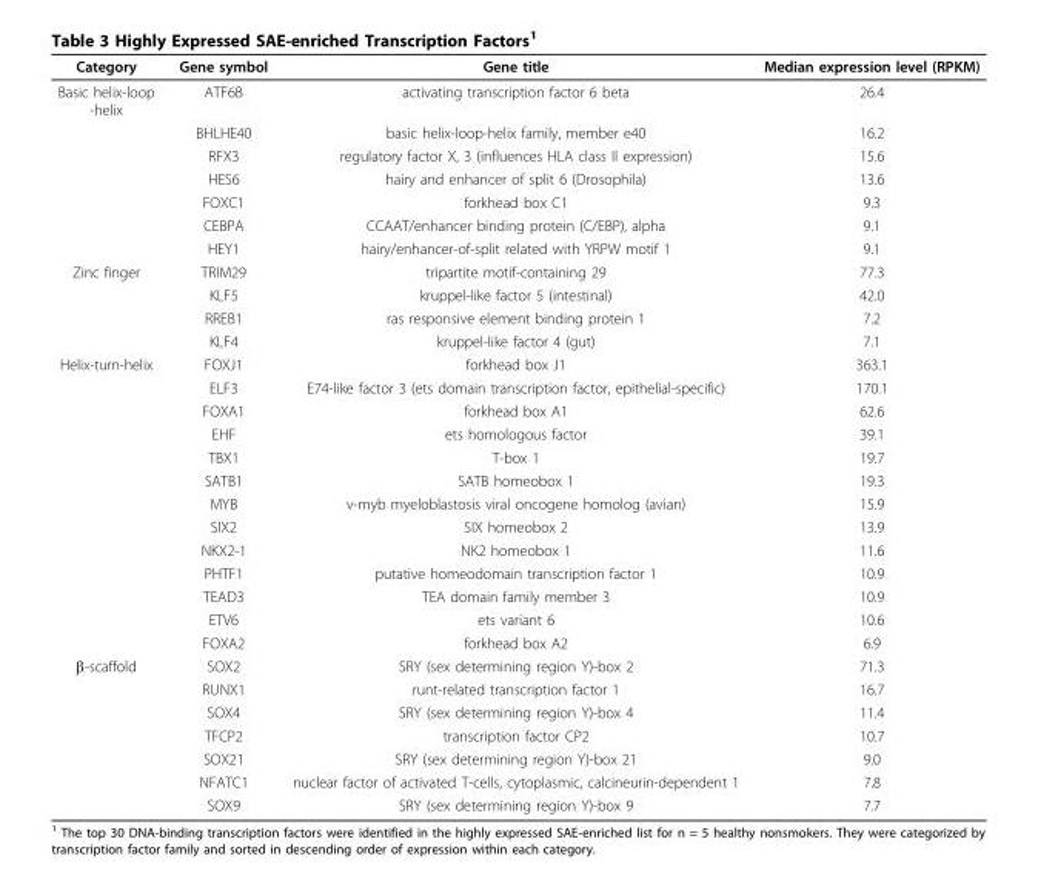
<table><thead><tr><td>Category</td><td>Gene symbol</td><td>Gene title</td><td>Median expression level (RPKM)</td></tr></thead><tbody><tr><td rowspan="7">Basic helix-loop -helix</td><td>ATF6B</td><td>activating transcription factor 6 beta</td><td>26.4</td></tr><tr><td>BHLHE40</td><td>basic helix-loop-helix family, member e40</td><td>16.2</td></tr><tr><td>RFX3</td><td>regulatory factor X, 3 (influences HLA class II expression)</td><td>15.6</td></tr><tr><td>HES6</td><td>hairy and enhancer of split 6 (Drosophila)</td><td>13.6</td></tr><tr><td>FOXC1</td><td>forkhead box C1</td><td>9.3</td></tr><tr><td>CEBPA</td><td>CCAAT/enhancer binding protein (C/EBP), alpha</td><td>9.1</td></tr><tr><td>HEY1</td><td>hairy/enhancer-of-split related with YRPW motif 1</td><td>9.1</td></tr><tr><td rowspan="4">Zinc finger</td><td>TRIM29</td><td>tripartite motif-containing 29</td><td>77.3</td></tr><tr><td>KLF5</td><td>kruppel-like factor 5 (intestinal)</td><td>42.0</td></tr><tr><td>RREB1</td><td>ras responsive element binding protein 1</td><td>7.2</td></tr><tr><td>KLF4</td><td>kruppel-like factor 4 (gut)</td><td>7.1</td></tr><tr><td rowspan="13">Helix-turn-helix</td><td>FOXJ1</td><td>forkhead box J1</td><td>363.1</td></tr><tr><td>ELF3</td><td>E74-like factor 3 (ets domain transcription factor, epithelial-specific)</td><td>170.1</td></tr><tr><td>FOXA1</td><td>forkhead box A1</td><td>62.6</td></tr><tr><td>EHF</td><td>ets homologous factor</td><td>39.1</td></tr><tr><td>TBX1</td><td>T-box 1</td><td>19.7</td></tr><tr><td>SATB1</td><td>SATB homeobox 1</td><td>19.3</td></tr><tr><td>MYB</td><td>v-myb myeloblastosis viral oncogene homolog (avian)</td><td>15.9</td></tr><tr><td>SIX2</td><td>SIX homeobox 2</td><td>13.9</td></tr><tr><td>NKX2-1</td><td>NK2 homeobox 1</td><td>11.6</td></tr><tr><td>PHTF1</td><td>putative homeodomain transcription factor 1</td><td>10.9</td></tr><tr><td>TEAD3</td><td>TEA domain family member 3</td><td>10.9</td></tr><tr><td>ETV6</td><td>ets variant 6</td><td>10.6</td></tr><tr><td>FOXA2</td><td>forkhead box A2</td><td>6.9</td></tr><tr><td rowspan="7">β-scaffold</td><td>SOX2</td><td>SRY (sex determining region Y)-box 2</td><td>71.3</td></tr><tr><td>RUNX1</td><td>runt-related transcription factor 1</td><td>16.7</td></tr><tr><td>SOX4</td><td>SRY (sex determining region Y)-box 4</td><td>11.4</td></tr><tr><td>TFCP2</td><td>transcription factor CP2</td><td>10.7</td></tr><tr><td>SOX21</td><td>SRY (sex determining region Y)-box 21</td><td>9.0</td></tr><tr><td>NFATC1</td><td>nuclear factor of activated T-cells, cytoplasmic, calcineurin-dependent 1</td><td>7.8</td></tr><tr><td>SOX9</td><td>SRY (sex determining region Y)-box 9</td><td>7.7</td></tr></tbody></table>